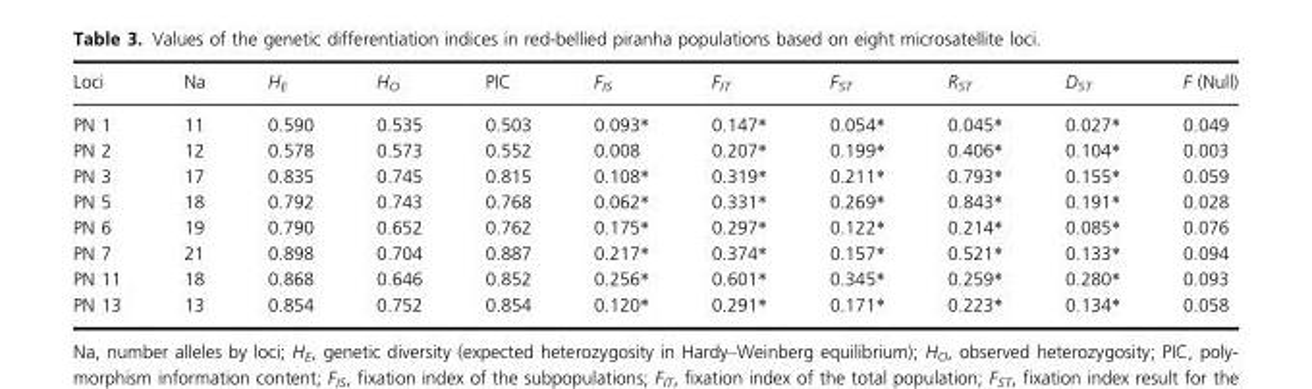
<table><thead><tr><td>Loci</td><td>Na</td><td>H<sub>E</sub></td><td>H<sub>O</sub></td><td>PIC</td><td>F<sub>IS</sub></td><td>F<sub>IT</sub></td><td>F<sub>ST</sub></td><td>R<sub>ST</sub></td><td>D<sub>ST</sub></td><td>F (Null)</td></tr></thead><tbody><tr><td>PN 1</td><td>11</td><td>0.590</td><td>0.535</td><td>0.503</td><td>0.093*</td><td>0.147*</td><td>0.054*</td><td>0.045*</td><td>0.027*</td><td>0.049</td></tr><tr><td>PN 2</td><td>12</td><td>0.578</td><td>0.573</td><td>0.552</td><td>0.008</td><td>0.207*</td><td>0.199*</td><td>0.406*</td><td>0.104*</td><td>0.003</td></tr><tr><td>PN 3</td><td>17</td><td>0.835</td><td>0.745</td><td>0.815</td><td>0.108*</td><td>0.319*</td><td>0.211*</td><td>0.793*</td><td>0.155*</td><td>0.059</td></tr><tr><td>PN 5</td><td>18</td><td>0.792</td><td>0.743</td><td>0.768</td><td>0.062*</td><td>0.331*</td><td>0.269*</td><td>0.843*</td><td>0.191*</td><td>0.028</td></tr><tr><td>PN 6</td><td>19</td><td>0.790</td><td>0.652</td><td>0.762</td><td>0.175*</td><td>0.297*</td><td>0.122*</td><td>0.214*</td><td>0.085*</td><td>0.076</td></tr><tr><td>PN 7</td><td>21</td><td>0.898</td><td>0.704</td><td>0.887</td><td>0.217*</td><td>0.374*</td><td>0.157*</td><td>0.521*</td><td>0.133*</td><td>0.094</td></tr><tr><td>PN 11</td><td>18</td><td>0.868</td><td>0.646</td><td>0.852</td><td>0.256*</td><td>0.601*</td><td>0.345*</td><td>0.259*</td><td>0.280*</td><td>0.093</td></tr><tr><td>PN 13</td><td>13</td><td>0.854</td><td>0.752</td><td>0.854</td><td>0.120*</td><td>0.291*</td><td>0.171*</td><td>0.223*</td><td>0.134*</td><td>0.058</td></tr></tbody></table>